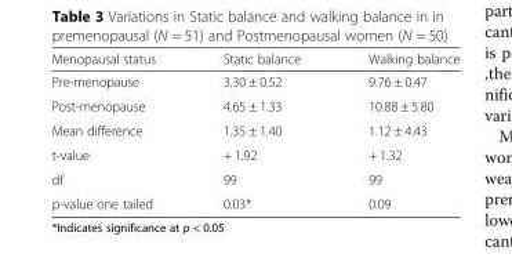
<table><thead><tr><td>Menopausal status</td><td>Static balance</td><td>Walking balance</td></tr></thead><tbody><tr><td>Pre-menopause</td><td>3.30 ± 0.52</td><td>9.76 ± 0.47</td></tr><tr><td>Post-menopause</td><td>4.65 ± 1.33</td><td>10.88 ± 5.80</td></tr><tr><td>Mean difference</td><td>1.35 ± 1.40</td><td>1.12 ± 4.43</td></tr><tr><td>t-value</td><td>+ 1.92</td><td>+ 1.32</td></tr><tr><td>df</td><td>99</td><td>99</td></tr><tr><td>p-value one tailed</td><td>0.03*</td><td>0.09</td></tr></tbody></table>